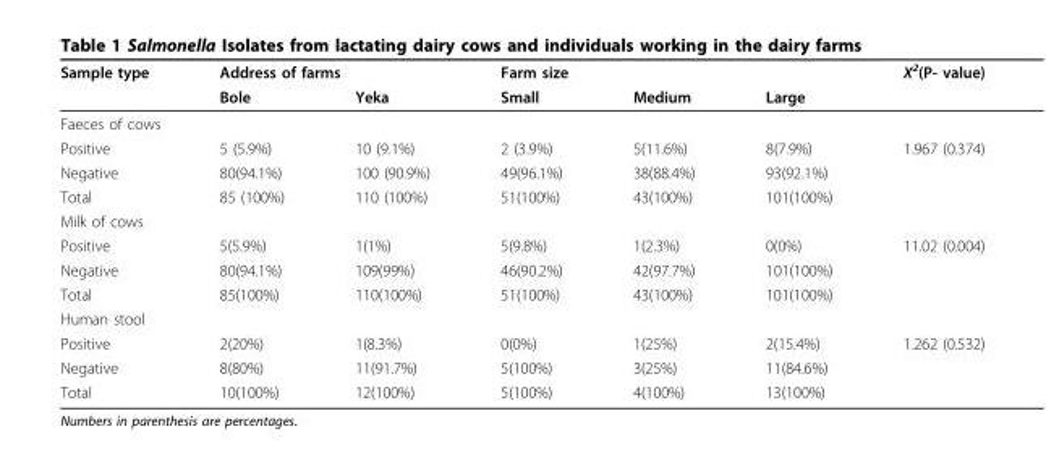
<table><thead><tr><td rowspan="2">Sample type</td><td colspan="2">Address of farms</td><td colspan="3">Farm size</td><td rowspan="2">X<sup>2</sup>(P- value)</td></tr><tr><td>Bole</td><td>Yeka</td><td>Small</td><td>Medium</td><td>Large</td></tr></thead><tbody><tr><td colspan="7">Faeces of cows</td></tr><tr><td>Positive</td><td>5 (5.9%)</td><td>10 (9.1%)</td><td>2 (3.9%)</td><td>5(11.6%)</td><td>8(7.9%)</td><td>1.967 (0.374)</td></tr><tr><td>Negative</td><td>80(94.1%)</td><td>100 (90.9%)</td><td>49(96.1%)</td><td>38(88.4%)</td><td>93(92.1%)</td><td></td></tr><tr><td>Total</td><td>85 (100%)</td><td>110 (100%)</td><td>51(100%)</td><td>43(100%)</td><td>101(100%)</td><td></td></tr><tr><td colspan="7">Milk of cows</td></tr><tr><td>Positive</td><td>5(5.9%)</td><td>1(1%)</td><td>5(9.8%)</td><td>1(2.3%)</td><td>0(0%)</td><td>11.02 (0.004)</td></tr><tr><td>Negative</td><td>80(94.1%)</td><td>109(99%)</td><td>46(90.2%)</td><td>42(97.7%)</td><td>101(100%)</td><td></td></tr><tr><td>Total</td><td>85(100%)</td><td>110(100%)</td><td>51(100%)</td><td>43(100%)</td><td>101(100%)</td><td></td></tr><tr><td colspan="7">Human stool</td></tr><tr><td>Positive</td><td>2(20%)</td><td>1(8.3%)</td><td>0(0%)</td><td>1(25%)</td><td>2(15.4%)</td><td>1.262 (0.532)</td></tr><tr><td>Negative</td><td>8(80%)</td><td>11(91.7%)</td><td>5(100%)</td><td>3(25%)</td><td>11(84.6%)</td><td></td></tr><tr><td>Total</td><td>10(100%)</td><td>12(100%)</td><td>5(100%)</td><td>4(100%)</td><td>13(100%)</td><td></td></tr></tbody></table>